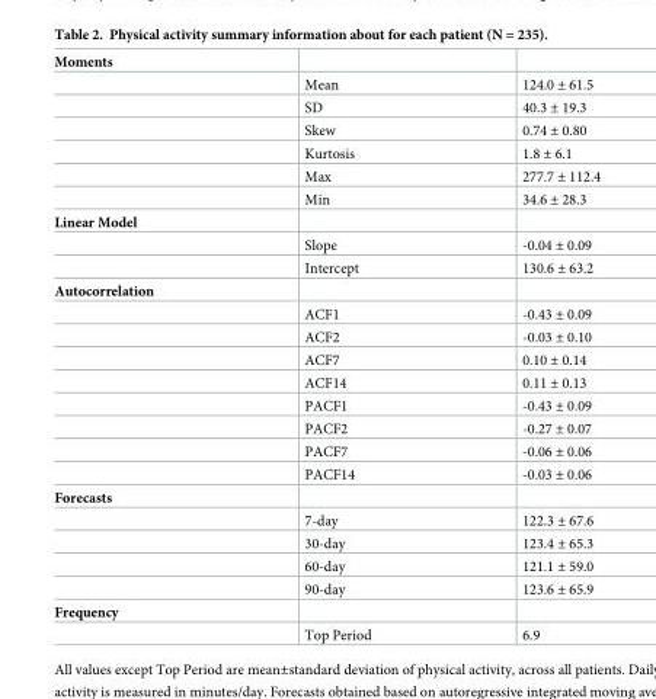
<table><tbody><tr><td colspan="3">Moments</td></tr><tr><td></td><td>Mean</td><td>124.0 ± 61.5</td></tr><tr><td></td><td>SD</td><td>40.3 ± 19.3</td></tr><tr><td></td><td>Skew</td><td>0.74 ± 0.80</td></tr><tr><td></td><td>Kurtosis</td><td>1.8 ± 6.1</td></tr><tr><td></td><td>Max</td><td>277.7 ± 112.4</td></tr><tr><td></td><td>Min</td><td>34.6 ± 28.3</td></tr><tr><td colspan="3">Linear Model</td></tr><tr><td></td><td>Slope</td><td>-0.04 ± 0.09</td></tr><tr><td></td><td>Intercept</td><td>130.6 ± 63.2</td></tr><tr><td colspan="3">Autocorrelation</td></tr><tr><td></td><td>ACF1</td><td>-0.43 ± 0.09</td></tr><tr><td></td><td>ACF2</td><td>-0.03 ± 0.10</td></tr><tr><td></td><td>ACF7</td><td>0.10 ± 0.14</td></tr><tr><td></td><td>ACF14</td><td>0.11 ± 0.13</td></tr><tr><td></td><td>PACF1</td><td>-0.43 ± 0.09</td></tr><tr><td></td><td>PACF2</td><td>-0.27 ± 0.07</td></tr><tr><td></td><td>PACF7</td><td>-0.06 ± 0.06</td></tr><tr><td></td><td>PACF14</td><td>-0.03 ± 0.06</td></tr><tr><td colspan="3">Forecasts</td></tr><tr><td></td><td>7-day</td><td>122.3 ± 67.6</td></tr><tr><td></td><td>30-day</td><td>123.4 ± 65.3</td></tr><tr><td></td><td>60-day</td><td>121.1 ± 59.0</td></tr><tr><td></td><td>90-day</td><td>123.6 ± 65.9</td></tr><tr><td colspan="3">Frequency</td></tr><tr><td></td><td>Top Period</td><td>6.9</td></tr></tbody></table>